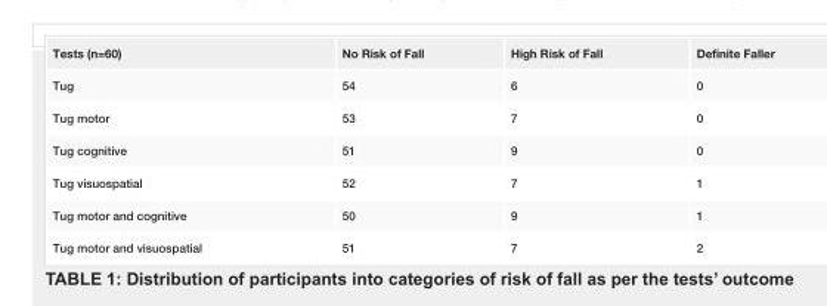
<table><tbody><tr><td>Tests (n=60)</td><td>No Risk of Fall</td><td>High Risk of Fall</td><td>Definite Faller</td></tr><tr><td>Tug</td><td>54</td><td>6</td><td>0</td></tr><tr><td>Tug motor</td><td>53</td><td>7</td><td>0</td></tr><tr><td>Tug cognitive</td><td>51</td><td>9</td><td>0</td></tr><tr><td>Tug visuospatial</td><td>52</td><td>7</td><td>1</td></tr><tr><td>Tug motor and cognitive</td><td>50</td><td>9</td><td>1</td></tr><tr><td>Tug motor and visuospatial</td><td>51</td><td>7</td><td>2</td></tr></tbody></table>